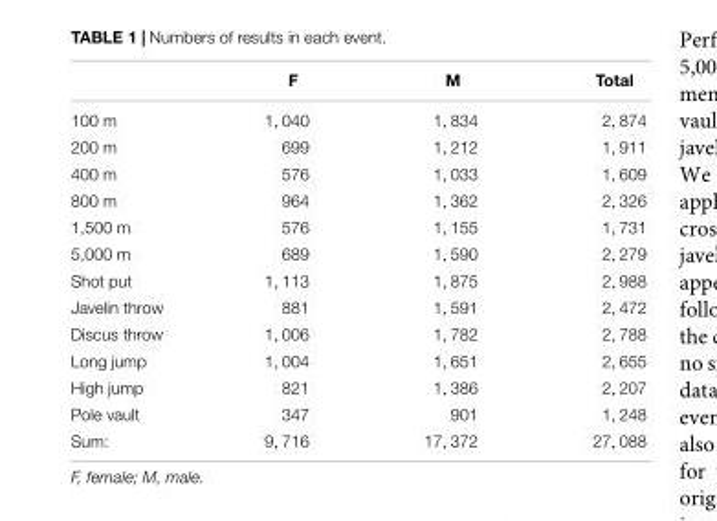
<table><thead><tr><td></td><td>F</td><td>M</td><td>Total</td></tr></thead><tbody><tr><td>100 m</td><td>1, 040</td><td>1, 834</td><td>2, 874</td></tr><tr><td>200 m</td><td>699</td><td>1, 212</td><td>1, 911</td></tr><tr><td>400 m</td><td>576</td><td>1, 033</td><td>1, 609</td></tr><tr><td>800 m</td><td>964</td><td>1, 362</td><td>2, 326</td></tr><tr><td>1,500 m</td><td>576</td><td>1, 155</td><td>1, 731</td></tr><tr><td>5,000 m</td><td>689</td><td>1, 590</td><td>2, 279</td></tr><tr><td>Shot put</td><td>1, 113</td><td>1, 875</td><td>2, 988</td></tr><tr><td>Javelin throw</td><td>881</td><td>1, 591</td><td>2, 472</td></tr><tr><td>Discus throw</td><td>1, 006</td><td>1, 782</td><td>2, 788</td></tr><tr><td>Long jump</td><td>1, 004</td><td>1, 651</td><td>2, 655</td></tr><tr><td>High jump</td><td>821</td><td>1, 386</td><td>2, 207</td></tr><tr><td>Pole vault</td><td>347</td><td>901</td><td>1, 248</td></tr><tr><td>Sum:</td><td>9, 716</td><td>17, 372</td><td>27, 088</td></tr></tbody></table>